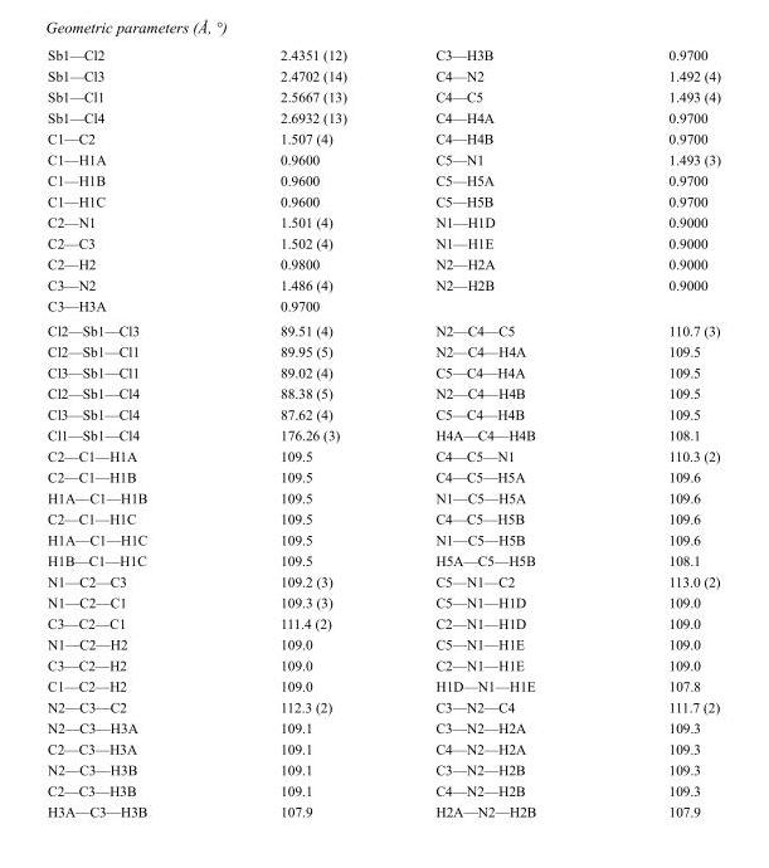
<table><tbody><tr><td>Sb1—Cl2</td><td>2.4351 (12)</td><td>C3—H3B</td><td>0.9700</td></tr><tr><td>Sb1—Cl3</td><td>2.4702 (14)</td><td>C4—N2</td><td>1.492 (4)</td></tr><tr><td>Sb1—Cl1</td><td>2.5667 (13)</td><td>C4—C5</td><td>1.493 (4)</td></tr><tr><td>Sb1—Cl4</td><td>2.6932 (13)</td><td>C4—H4A</td><td>0.9700</td></tr><tr><td>C1—C2</td><td>1.507 (4)</td><td>C4—H4B</td><td>0.9700</td></tr><tr><td>C1—H1A</td><td>0.9600</td><td>C5—N1</td><td>1.493 (3)</td></tr><tr><td>C1—H1B</td><td>0.9600</td><td>C5—H5A</td><td>0.9700</td></tr><tr><td>C1—H1C</td><td>0.9600</td><td>C5—H5B</td><td>0.9700</td></tr><tr><td>C2—N1</td><td>1.501 (4)</td><td>N1—H1D</td><td>0.9000</td></tr><tr><td>C2—C3</td><td>1.502 (4)</td><td>N1—H1E</td><td>0.9000</td></tr><tr><td>C2—H2</td><td>0.9800</td><td>N2—H2A</td><td>0.9000</td></tr><tr><td>C3—N2</td><td>1.486 (4)</td><td>N2—H2B</td><td>0.9000</td></tr><tr><td>C3—H3A</td><td>0.9700</td><td></td><td></td></tr><tr><td>Cl2—Sb1—Cl3</td><td>89.51 (4)</td><td>N2—C4—C5</td><td>110.7 (3)</td></tr><tr><td>Cl2—Sb1—Cl1</td><td>89.95 (5)</td><td>N2—C4—H4A</td><td>109.5</td></tr><tr><td>Cl3—Sb1—Cl1</td><td>89.02 (4)</td><td>C5—C4—H4A</td><td>109.5</td></tr><tr><td>Cl2—Sb1—Cl4</td><td>88.38 (5)</td><td>N2—C4—H4B</td><td>109.5</td></tr><tr><td>Cl3—Sb1—Cl4</td><td>87.62 (4)</td><td>C5—C4—H4B</td><td>109.5</td></tr><tr><td>Cl1—Sb1—Cl4</td><td>176.26 (3)</td><td>H4A—C4—H4B</td><td>108.1</td></tr><tr><td>C2—C1—H1A</td><td>109.5</td><td>C4—C5—N1</td><td>110.3 (2)</td></tr><tr><td>C2—C1—H1B</td><td>109.5</td><td>C4—C5—H5A</td><td>109.6</td></tr><tr><td>H1A—C1—H1B</td><td>109.5</td><td>N1—C5—H5A</td><td>109.6</td></tr><tr><td>C2—C1—H1C</td><td>109.5</td><td>C4—C5—H5B</td><td>109.6</td></tr><tr><td>H1A—C1—H1C</td><td>109.5</td><td>N1—C5—H5B</td><td>109.6</td></tr><tr><td>H1B—C1—H1C</td><td>109.5</td><td>H5A—C5—H5B</td><td>108.1</td></tr><tr><td>N1—C2—C3</td><td>109.2 (3)</td><td>C5—N1—C2</td><td>113.0 (2)</td></tr><tr><td>N1—C2—C1</td><td>109.3 (3)</td><td>C5—N1—H1D</td><td>109.0</td></tr><tr><td>C3—C2—C1</td><td>111.4 (2)</td><td>C2—N1—H1D</td><td>109.0</td></tr><tr><td>N1—C2—H2</td><td>109.0</td><td>C5—N1—H1E</td><td>109.0</td></tr><tr><td>C3—C2—H2</td><td>109.0</td><td>C2—N1—H1E</td><td>109.0</td></tr><tr><td>C1—C2—H2</td><td>109.0</td><td>H1D—N1—H1E</td><td>107.8</td></tr><tr><td>N2—C3—C2</td><td>112.3 (2)</td><td>C3—N2—C4</td><td>111.7 (2)</td></tr><tr><td>N2—C3—H3A</td><td>109.1</td><td>C3—N2—H2A</td><td>109.3</td></tr><tr><td>C2—C3—H3A</td><td>109.1</td><td>C4—N2—H2A</td><td>109.3</td></tr><tr><td>N2—C3—H3B</td><td>109.1</td><td>C3—N2—H2B</td><td>109.3</td></tr><tr><td>C2—C3—H3B</td><td>109.1</td><td>C4—N2—H2B</td><td>109.3</td></tr><tr><td>H3A—C3—H3B</td><td>107.9</td><td>H2A—N2—H2B</td><td>107.9</td></tr></tbody></table>